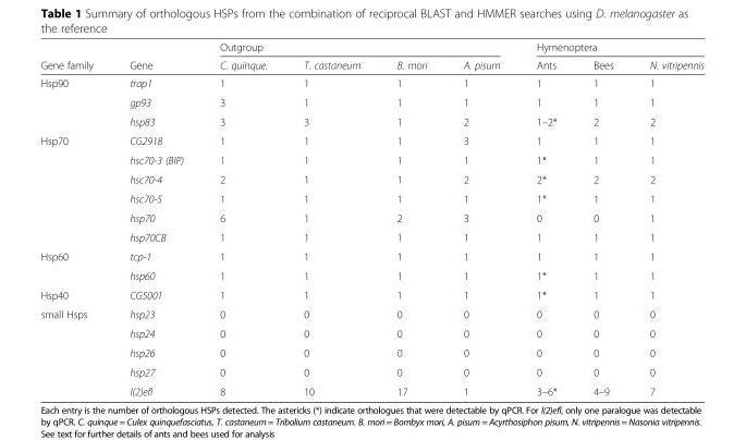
<table><thead><tr><td rowspan="2">Gene family</td><td rowspan="2">Gene</td><td colspan="4">Outgroup</td><td colspan="3">Hymenoptera</td></tr><tr><td>C. quinque.</td><td>T. castaneum</td><td>B. mori</td><td>A. pisum</td><td>Ants</td><td>Bees</td><td>N. vitripennis</td></tr></thead><tbody><tr><td rowspan="3">Hsp90</td><td>trap1</td><td>1</td><td>1</td><td>1</td><td>1</td><td>1</td><td>1</td><td>1</td></tr><tr><td>gp93</td><td>3</td><td>1</td><td>1</td><td>1</td><td>1</td><td>1</td><td>1</td></tr><tr><td>hsp83</td><td>3</td><td>3</td><td>1</td><td>2</td><td>1–2*</td><td>2</td><td>2</td></tr><tr><td rowspan="6">Hsp70</td><td>CG2918</td><td>1</td><td>1</td><td>1</td><td>3</td><td>1</td><td>1</td><td>1</td></tr><tr><td>hsc70-3 (BIP)</td><td>1</td><td>1</td><td>1</td><td>1</td><td>1*</td><td>1</td><td>1</td></tr><tr><td>hsc70-4</td><td>2</td><td>1</td><td>1</td><td>2</td><td>2*</td><td>2</td><td>2</td></tr><tr><td>hsc70-5</td><td>1</td><td>1</td><td>1</td><td>1</td><td>1*</td><td>1</td><td>1</td></tr><tr><td>hsp70</td><td>6</td><td>1</td><td>2</td><td>3</td><td>0</td><td>0</td><td>1</td></tr><tr><td>hsp70CB</td><td>1</td><td>1</td><td>1</td><td>1</td><td>1</td><td>1</td><td>1</td></tr><tr><td rowspan="2">Hsp60</td><td>tcp-1</td><td>1</td><td>1</td><td>1</td><td>1</td><td>1</td><td>1</td><td>1</td></tr><tr><td>hsp60</td><td>1</td><td>1</td><td>1</td><td>1</td><td>1*</td><td>1</td><td>1</td></tr><tr><td>Hsp40</td><td>CG5001</td><td>1</td><td>1</td><td>1</td><td>1</td><td>1*</td><td>1</td><td>1</td></tr><tr><td rowspan="5">small Hsps</td><td>hsp23</td><td>0</td><td>0</td><td>0</td><td>0</td><td>0</td><td>0</td><td>0</td></tr><tr><td>hsp24</td><td>0</td><td>0</td><td>0</td><td>0</td><td>0</td><td>0</td><td>0</td></tr><tr><td>hsp26</td><td>0</td><td>0</td><td>0</td><td>0</td><td>0</td><td>0</td><td>0</td></tr><tr><td>hsp27</td><td>0</td><td>0</td><td>0</td><td>0</td><td>0</td><td>0</td><td>0</td></tr><tr><td>l(2)efl</td><td>8</td><td>10</td><td>17</td><td>1</td><td>3–6*</td><td>4–9</td><td>7</td></tr></tbody></table>